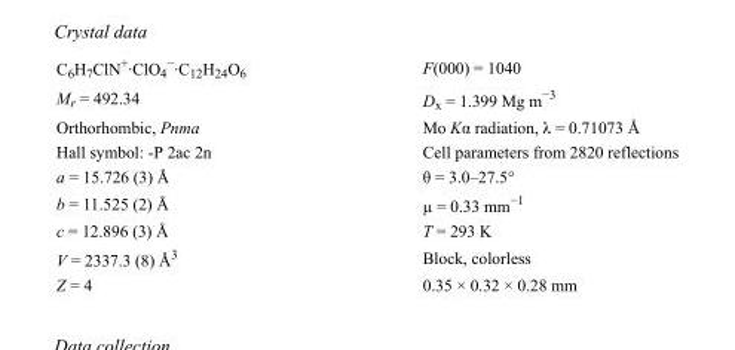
<table><tbody><tr><td>C<sub>6</sub>H<sub>7</sub>ClN<sup>+</sup>·ClO<sub>4</sub> <sup>−</sup>·C<sub>12</sub>H<sub>24</sub>O<sub>6</sub></td><td>F(000) = 1040</td></tr><tr><td>M<sub>r</sub> = 492.34</td><td>D<sub>x</sub> = 1.399 Mg m<sup>−3</sup></td></tr><tr><td>Orthorhombic, Pnma</td><td>Mo Kα radiation, λ = 0.71073 Å</td></tr><tr><td>Hall symbol: -P 2ac 2n</td><td>Cell parameters from 2820 reflections</td></tr><tr><td>a = 15.726 (3) Å</td><td>θ = 3.0–27.5°</td></tr><tr><td>b = 11.525 (2) Å</td><td>µ = 0.33 mm<sup>−1</sup></td></tr><tr><td>c = 12.896 (3) Å</td><td>T = 293 K</td></tr><tr><td>V = 2337.3 (8) Å<sup>3</sup></td><td>Block, colorless</td></tr><tr><td>Z = 4</td><td>0.35 × 0.32 × 0.28 mm</td></tr></tbody></table>